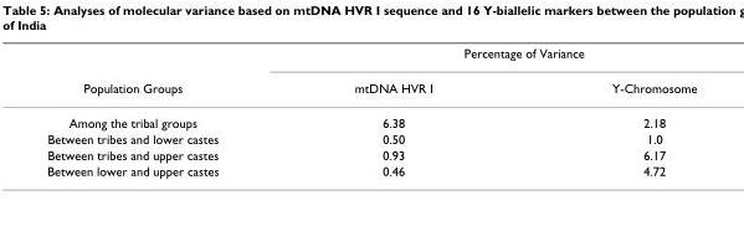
<table><thead><tr><td rowspan="2">Population Groups</td><td colspan="2">Percentage of Variance</td></tr><tr><td>mtDNA HVR I</td><td>Y-Chromosome</td></tr></thead><tbody><tr><td>Among the tribal groups</td><td>6.38</td><td>2.18</td></tr><tr><td>Between tribes and lower castes</td><td>0.50</td><td>1.0</td></tr><tr><td>Between tribes and upper castes</td><td>0.93</td><td>6.17</td></tr><tr><td>Between lower and upper castes</td><td>0.46</td><td>4.72</td></tr></tbody></table>